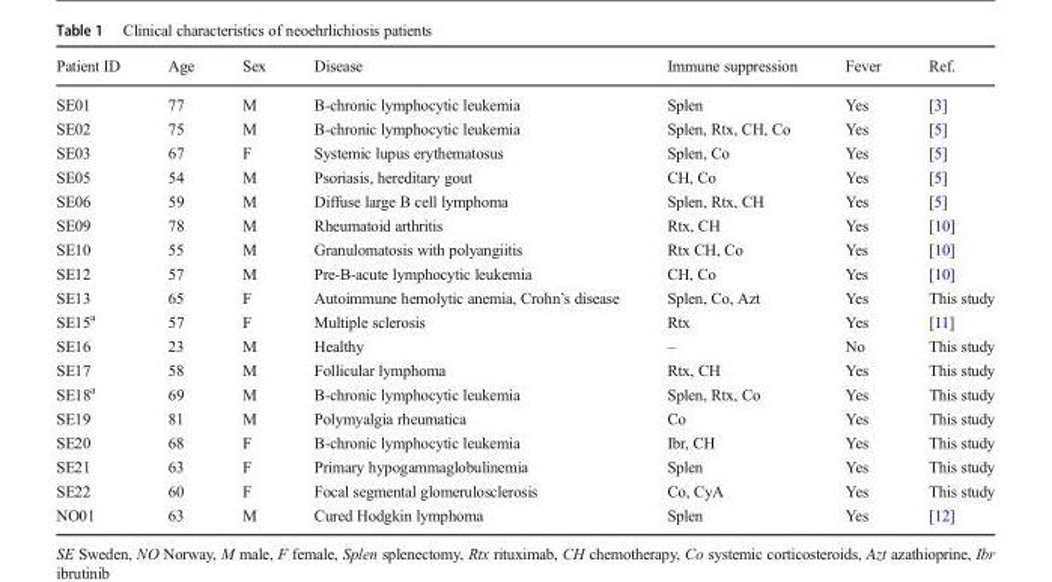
<table><thead><tr><td>Patient ID</td><td>Age</td><td>Sex</td><td>Disease</td><td>Immune suppression</td><td>Fever</td><td>Ref.</td></tr></thead><tbody><tr><td>SE01</td><td>77</td><td>M</td><td>B-chronic lymphocytic leukemia</td><td>Splen</td><td>Yes</td><td>[3]</td></tr><tr><td>SE02</td><td>75</td><td>M</td><td>B-chronic lymphocytic leukemia</td><td>Splen, Rtx, CH, Co</td><td>Yes</td><td>[5]</td></tr><tr><td>SE03</td><td>67</td><td>F</td><td>Systemic lupus erythematosus</td><td>Splen, Co</td><td>Yes</td><td>[5]</td></tr><tr><td>SE05</td><td>54</td><td>M</td><td>Psoriasis, hereditary gout</td><td>CH, Co</td><td>Yes</td><td>[5]</td></tr><tr><td>SE06</td><td>59</td><td>M</td><td>Diffuse large B cell lymphoma</td><td>Splen, Rtx, CH</td><td>Yes</td><td>[5]</td></tr><tr><td>SE09</td><td>78</td><td>M</td><td>Rheumatoid arthritis</td><td>Rtx, CH</td><td>Yes</td><td>[10]</td></tr><tr><td>SE10</td><td>55</td><td>M</td><td>Granulomatosis with polyangiitis</td><td>Rtx CH, Co</td><td>Yes</td><td>[10]</td></tr><tr><td>SE12</td><td>57</td><td>M</td><td>Pre-B-acute lymphocytic leukemia</td><td>CH, Co</td><td>Yes</td><td>[10]</td></tr><tr><td>SE13</td><td>65</td><td>F</td><td>Autoimmune hemolytic anemia, Crohn’s disease</td><td>Splen, Co, Azt</td><td>Yes</td><td>This study</td></tr><tr><td>SE15<sup>a</sup></td><td>57</td><td>F</td><td>Multiple sclerosis</td><td>Rtx</td><td>Yes</td><td>[11]</td></tr><tr><td>SE16</td><td>23</td><td>M</td><td>Healthy</td><td>–</td><td>No</td><td>This study</td></tr><tr><td>SE17</td><td>58</td><td>M</td><td>Follicular lymphoma</td><td>Rtx, CH</td><td>Yes</td><td>This study</td></tr><tr><td>SE18<sup>a</sup></td><td>69</td><td>M</td><td>B-chronic lymphocytic leukemia</td><td>Splen, Rtx, Co</td><td>Yes</td><td>This study</td></tr><tr><td>SE19</td><td>81</td><td>M</td><td>Polymyalgia rheumatica</td><td>Co</td><td>Yes</td><td>This study</td></tr><tr><td>SE20</td><td>68</td><td>F</td><td>B-chronic lymphocytic leukemia</td><td>Ibr, CH</td><td>Yes</td><td>This study</td></tr><tr><td>SE21</td><td>63</td><td>F</td><td>Primary hypogammaglobulinemia</td><td>Splen</td><td>Yes</td><td>This study</td></tr><tr><td>SE22</td><td>60</td><td>F</td><td>Focal segmental glomerulosclerosis</td><td>Co, CyA</td><td>Yes</td><td>This study</td></tr><tr><td>NO01</td><td>63</td><td>M</td><td>Cured Hodgkin lymphoma</td><td>Splen</td><td>Yes</td><td>[12]</td></tr></tbody></table>